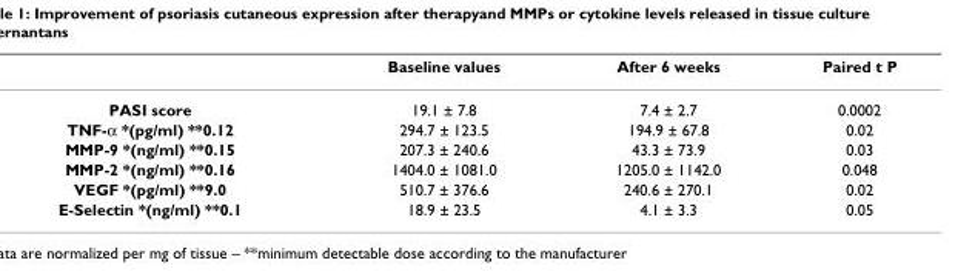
<table><thead><tr><td></td><td>Baseline values</td><td>After 6 weeks</td><td>Paired t P</td></tr></thead><tbody><tr><td>PASI score</td><td>19.1 ± 7.8</td><td>7.4 ± 2.7</td><td>0.0002</td></tr><tr><td>TNF-α *(pg/ml) **0.12</td><td>294.7 ± 123.5</td><td>194.9 ± 67.8</td><td>0.02</td></tr><tr><td>MMP-9 *(ng/ml) **0.15</td><td>207.3 ± 240.6</td><td>43.3 ± 73.9</td><td>0.03</td></tr><tr><td>MMP-2 *(ng/ml) **0.16</td><td>1404.0 ± 1081.0</td><td>1205.0 ± 1142.0</td><td>0.048</td></tr><tr><td>VEGF *(pg/ml) **9.0</td><td>510.7 ± 376.6</td><td>240.6 ± 270.1</td><td>0.02</td></tr><tr><td>E-Selectin *(ng/ml) **0.1</td><td>18.9 ± 23.5</td><td>4.1 ± 3.3</td><td>0.05</td></tr></tbody></table>